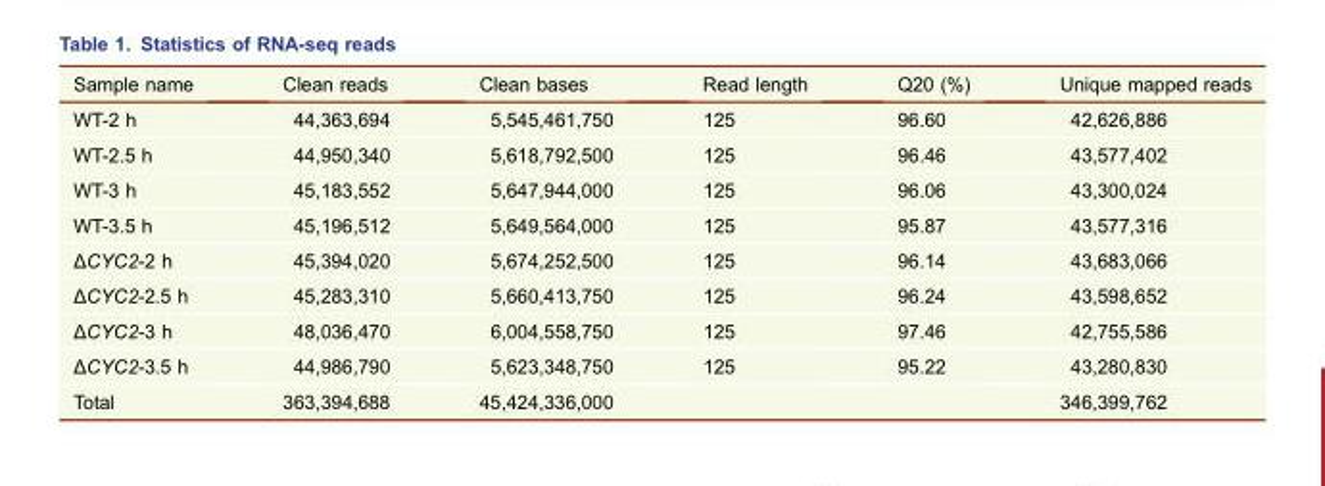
<table><thead><tr><td>Sample name</td><td>Clean reads</td><td>Clean bases</td><td>Read length</td><td>Q20 (%)</td><td>Unique mapped reads</td></tr></thead><tbody><tr><td>WT-2 h</td><td>44,363,694</td><td>5,545,461,750</td><td>125</td><td>96.60</td><td>42,626,886</td></tr><tr><td>WT-2.5 h</td><td>44,950,340</td><td>5,618,792,500</td><td>125</td><td>96.46</td><td>43,577,402</td></tr><tr><td>WT-3 h</td><td>45,183,552</td><td>5,647,944,000</td><td>125</td><td>96.06</td><td>43,300,024</td></tr><tr><td>WT-3.5 h</td><td>45,196,512</td><td>5,649,564,000</td><td>125</td><td>95.87</td><td>43,577,316</td></tr><tr><td>ΔCYC2-2 h</td><td>45,394,020</td><td>5,674,252,500</td><td>125</td><td>96.14</td><td>43,683,066</td></tr><tr><td>ΔCYC2-2.5 h</td><td>45,283,310</td><td>5,660,413,750</td><td>125</td><td>96.24</td><td>43,598,652</td></tr><tr><td>ΔCYC2-3 h</td><td>48,036,470</td><td>6,004,558,750</td><td>125</td><td>97.46</td><td>42,755,586</td></tr><tr><td>ΔCYC2-3.5 h</td><td>44,986,790</td><td>5,623,348,750</td><td>125</td><td>95.22</td><td>43,280,830</td></tr><tr><td>Total</td><td>363,394,688</td><td>45,424,336,000</td><td></td><td></td><td>346,399,762</td></tr></tbody></table>